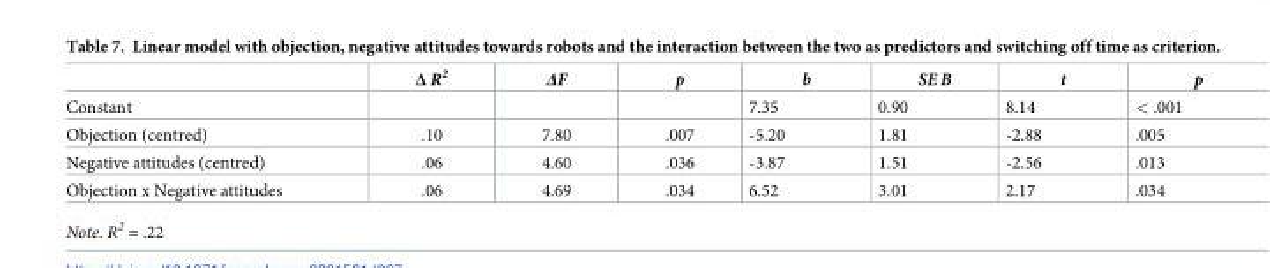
<table><thead><tr><td></td><td>Δ R<sup>2</sup></td><td>ΔF</td><td>p</td><td>b</td><td>SE B</td><td>t</td><td>p</td></tr></thead><tbody><tr><td>Constant</td><td></td><td></td><td></td><td>7.35</td><td>0.90</td><td>8.14</td><td>&lt; .001</td></tr><tr><td>Objection (centred)</td><td>.10</td><td>7.80</td><td>.007</td><td>-5.20</td><td>1.81</td><td>-2.88</td><td>.005</td></tr><tr><td>Negative attitudes (centred)</td><td>.06</td><td>4.60</td><td>.036</td><td>-3.87</td><td>1.51</td><td>-2.56</td><td>.013</td></tr><tr><td>Objection x Negative attitudes</td><td>.06</td><td>4.69</td><td>.034</td><td>6.52</td><td>3.01</td><td>2.17</td><td>.034</td></tr></tbody></table>